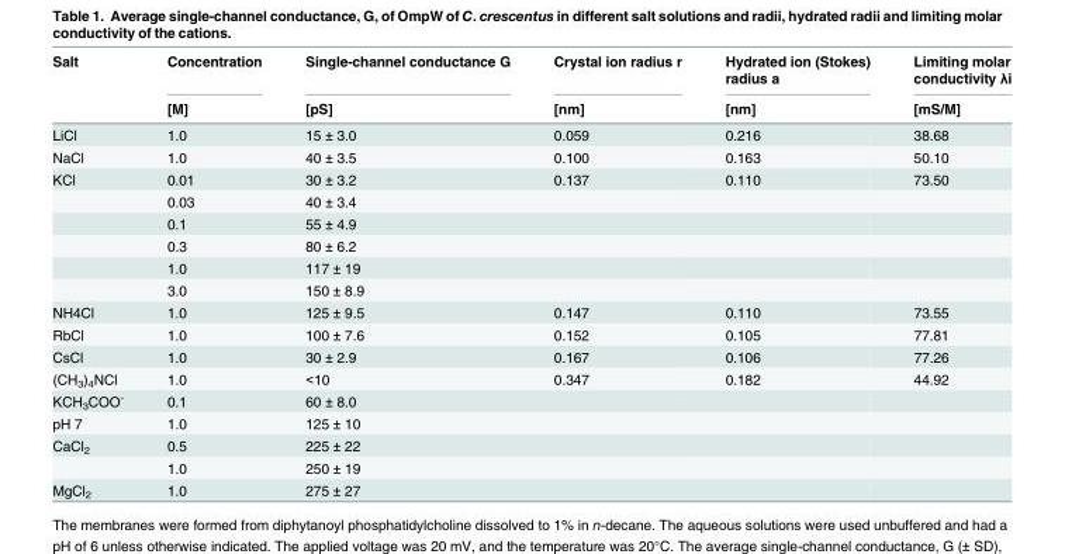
<table><thead><tr><td rowspan="2">Salt</td><td rowspan="2">Concentration [M]</td><td rowspan="2">Single-channel conductance G [pS]</td><td rowspan="2">Crystal ion radius r [nm]</td><td rowspan="2">Hydrated ion (Stokes) radius a [nm]</td><td rowspan="2">Limiting molar conductivity λi [mS/M]</td></tr><tr></tr></thead><tbody><tr><td>LiCl</td><td>1.0</td><td>15 ± 3.0</td><td>0.059</td><td>0.216</td><td>38.68</td></tr><tr><td>NaCl</td><td>1.0</td><td>40 ± 3.5</td><td>0.100</td><td>0.163</td><td>50.10</td></tr><tr><td rowspan="6">KCl</td><td>0.01</td><td>30 ± 3.2</td><td>0.137</td><td>0.110</td><td>73.50</td></tr><tr><td>0.03</td><td>40 ± 3.4</td><td></td><td></td><td></td></tr><tr><td>0.1</td><td>55 ± 4.9</td><td></td><td></td><td></td></tr><tr><td>0.3</td><td>80 ± 6.2</td><td></td><td></td><td></td></tr><tr><td>1.0</td><td>117 ± 19</td><td></td><td></td><td></td></tr><tr><td>3.0</td><td>150 ± 8.9</td><td></td><td></td><td></td></tr><tr><td>NH4Cl</td><td>1.0</td><td>125 ± 9.5</td><td>0.147</td><td>0.110</td><td>73.55</td></tr><tr><td>RbCl</td><td>1.0</td><td>100 ± 7.6</td><td>0.152</td><td>0.105</td><td>77.81</td></tr><tr><td>CsCl</td><td>1.0</td><td>30 ± 2.9</td><td>0.167</td><td>0.106</td><td>77.26</td></tr><tr><td>(CH<sub>3</sub>)<sub>4</sub>NCl</td><td>1.0</td><td>&lt;10</td><td>0.347</td><td>0.182</td><td>44.92</td></tr><tr><td>KCH<sub>3</sub>COO<sup>-</sup></td><td>0.1</td><td>60 ± 8.0</td><td></td><td></td><td></td></tr><tr><td>pH 7</td><td>1.0</td><td>125 ± 10</td><td></td><td></td><td></td></tr><tr><td rowspan="2">CaCl<sub>2</sub></td><td>0.5</td><td>225 ± 22</td><td></td><td></td><td></td></tr><tr><td>1.0</td><td>250 ± 19</td><td></td><td></td><td></td></tr><tr><td>MgCl<sub>2</sub></td><td>1.0</td><td>275 ± 27</td><td></td><td></td><td></td></tr></tbody></table>